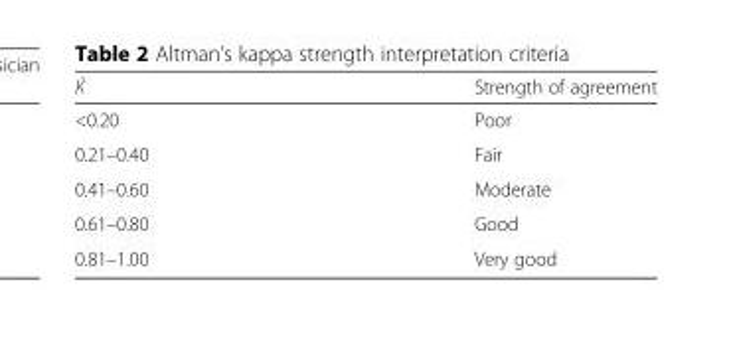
<table><thead><tr><td>Ќ</td><td>Strength of agreement</td></tr></thead><tbody><tr><td>&lt;0.20</td><td>Poor</td></tr><tr><td>0.21–0.40</td><td>Fair</td></tr><tr><td>0.41–0.60</td><td>Moderate</td></tr><tr><td>0.61–0.80</td><td>Good</td></tr><tr><td>0.81–1.00</td><td>Very good</td></tr></tbody></table>